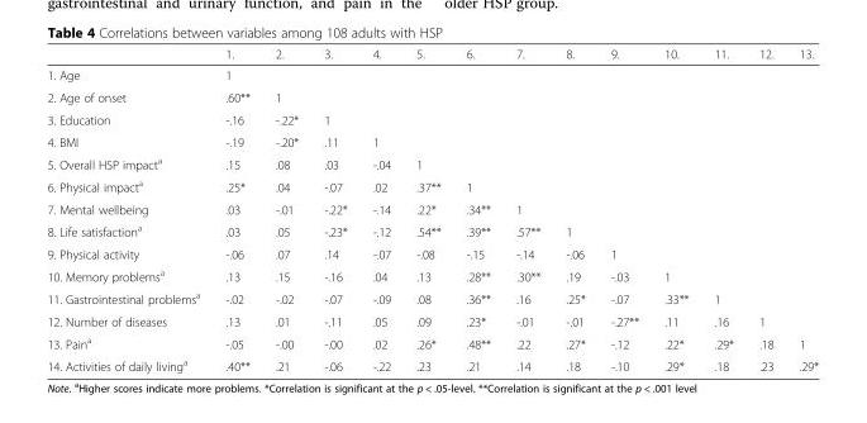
<table><thead><tr><td></td><td>1.</td><td>2.</td><td>3.</td><td>4.</td><td>5.</td><td>6.</td><td>7.</td><td>8.</td><td>9.</td><td>10.</td><td>11.</td><td>12.</td><td>13.</td></tr></thead><tbody><tr><td>1. Age</td><td>1</td><td></td><td></td><td></td><td></td><td></td><td></td><td></td><td></td><td></td><td></td><td></td><td></td></tr><tr><td>2. Age of onset</td><td>.60**</td><td>1</td><td></td><td></td><td></td><td></td><td></td><td></td><td></td><td></td><td></td><td></td><td></td></tr><tr><td>3. Education</td><td>-.16</td><td>-.22*</td><td>1</td><td></td><td></td><td></td><td></td><td></td><td></td><td></td><td></td><td></td><td></td></tr><tr><td>4. BMI</td><td>-.19</td><td>-.20*</td><td>.11</td><td>1</td><td></td><td></td><td></td><td></td><td></td><td></td><td></td><td></td><td></td></tr><tr><td>5. Overall HSP impact<sup>a</sup></td><td>.15</td><td>.08</td><td>.03</td><td>-.04</td><td>1</td><td></td><td></td><td></td><td></td><td></td><td></td><td></td><td></td></tr><tr><td>6. Physical impact<sup>a</sup></td><td>.25*</td><td>.04</td><td>-.07</td><td>.02</td><td>.37**</td><td>1</td><td></td><td></td><td></td><td></td><td></td><td></td><td></td></tr><tr><td>7. Mental wellbeing</td><td>.03</td><td>-.01</td><td>-.22*</td><td>-.14</td><td>.22*</td><td>.34**</td><td>1</td><td></td><td></td><td></td><td></td><td></td><td></td></tr><tr><td>8. Life satisfaction<sup>a</sup></td><td>.03</td><td>.05</td><td>-.23*</td><td>-.12</td><td>.54**</td><td>.39**</td><td>.57**</td><td>1</td><td></td><td></td><td></td><td></td><td></td></tr><tr><td>9. Physical activity</td><td>-.06</td><td>.07</td><td>.14</td><td>-.07</td><td>-.08</td><td>-.15</td><td>-.14</td><td>-.06</td><td>1</td><td></td><td></td><td></td><td></td></tr><tr><td>10. Memory problems<sup>a</sup></td><td>.13</td><td>.15</td><td>-.16</td><td>.04</td><td>.13</td><td>.28**</td><td>.30**</td><td>.19</td><td>-.03</td><td>1</td><td></td><td></td><td></td></tr><tr><td>11. Gastrointestinal problems<sup>a</sup></td><td>-.02</td><td>-.02</td><td>-.07</td><td>-.09</td><td>.08</td><td>.36**</td><td>.16</td><td>.25*</td><td>-.07</td><td>.33**</td><td>1</td><td></td><td></td></tr><tr><td>12. Number of diseases</td><td>.13</td><td>.01</td><td>-.11</td><td>.05</td><td>.09</td><td>.23*</td><td>-.01</td><td>-.01</td><td>-.27**</td><td>.11</td><td>.16</td><td>1</td><td></td></tr><tr><td>13. Pain<sup>a</sup></td><td>-.05</td><td>-.00</td><td>-.00</td><td>.02</td><td>.26*</td><td>.48**</td><td>.22</td><td>.27*</td><td>-.12</td><td>.22*</td><td>.29*</td><td>.18</td><td>1</td></tr><tr><td>14. Activities of daily living<sup>a</sup></td><td>.40**</td><td>.21</td><td>-.06</td><td>-.22</td><td>.23</td><td>.21</td><td>.14</td><td>.18</td><td>-.10</td><td>.29*</td><td>.18</td><td>.23</td><td>.29*</td></tr></tbody></table>